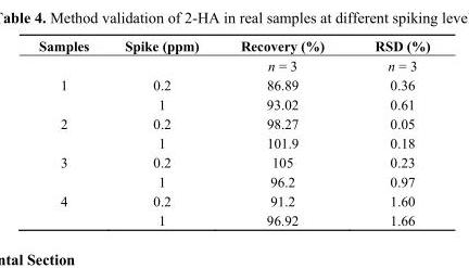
<table><thead><tr><td rowspan="2">Samples</td><td rowspan="2">Spike (ppm)</td><td rowspan="2">Recovery (%) n = 3</td><td rowspan="2">RSD (%) n = 3</td></tr><tr></tr></thead><tbody><tr><td rowspan="2">1</td><td>0.2</td><td>86.89</td><td>0.36</td></tr><tr><td>1</td><td>93.02</td><td>0.61</td></tr><tr><td rowspan="2">2</td><td>0.2</td><td>98.27</td><td>0.05</td></tr><tr><td>1</td><td>101.9</td><td>0.18</td></tr><tr><td rowspan="2">3</td><td>0.2</td><td>105</td><td>0.23</td></tr><tr><td>1</td><td>96.2</td><td>0.97</td></tr><tr><td rowspan="2">4</td><td>0.2</td><td>91.2</td><td>1.60</td></tr><tr><td>1</td><td>96.92</td><td>1.66</td></tr></tbody></table>